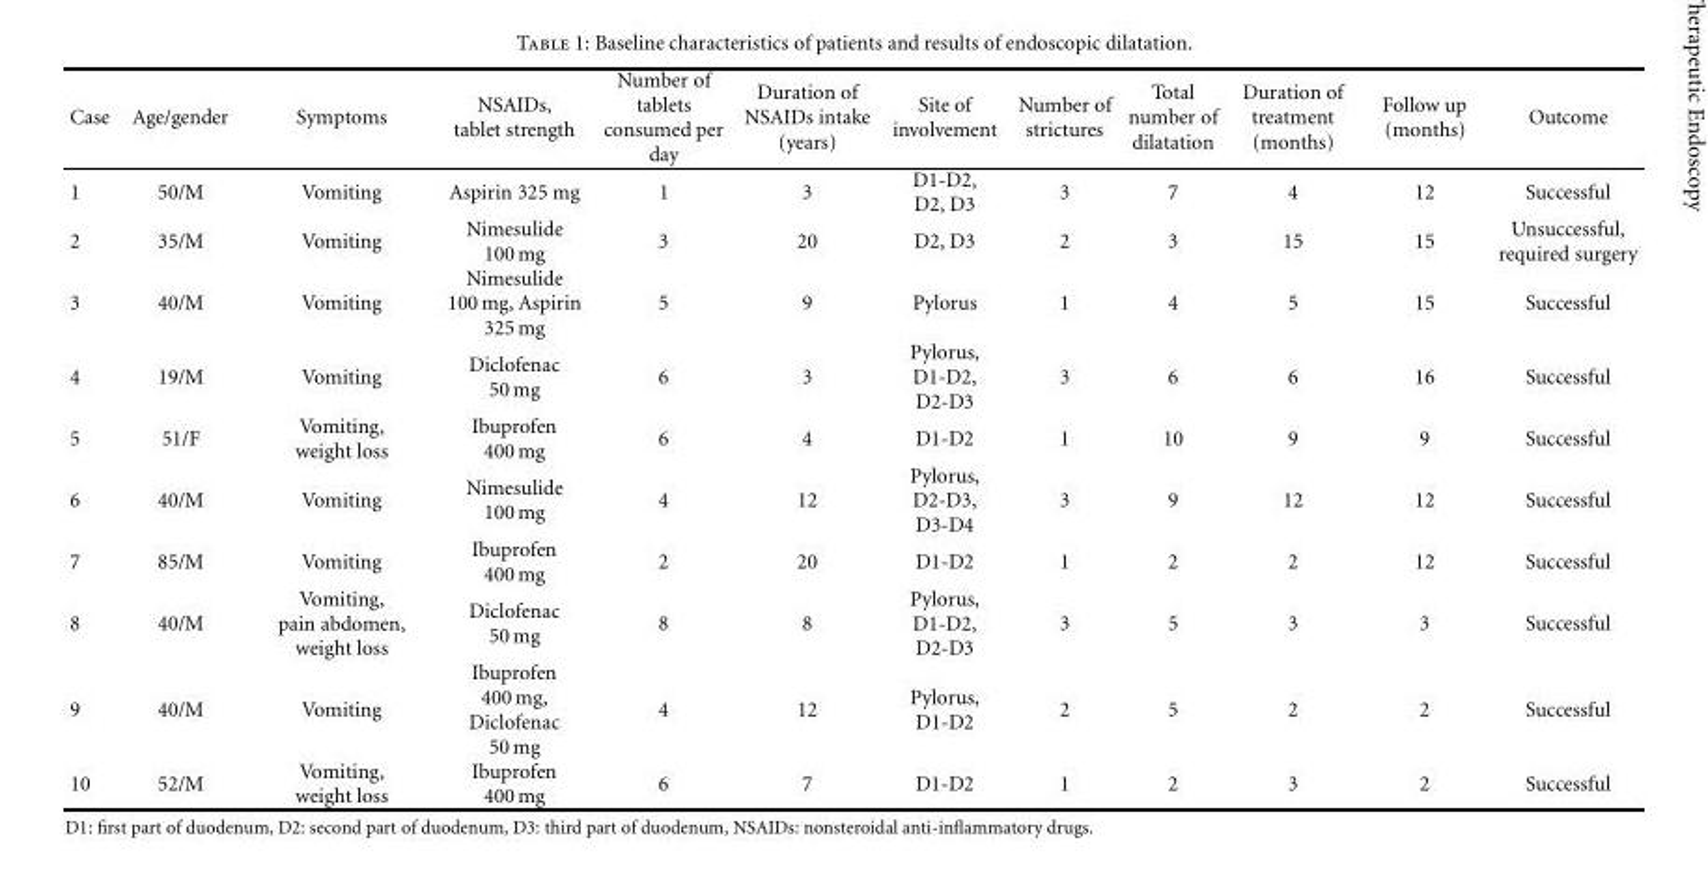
<table><thead><tr><td>Case</td><td>Age/gender</td><td>Symptoms</td><td>NSAIDs, tablet strength</td><td>Number of tablets consumed per day</td><td>Duration of NSAIDs intake (years)</td><td>Site of involvement</td><td>Number of strictures</td><td>Total number of dilatation</td><td>Duration of treatment (months)</td><td>Follow up (months)</td><td>Outcome</td></tr></thead><tbody><tr><td>1</td><td>50/M</td><td>Vomiting</td><td>Aspirin 325 mg</td><td>1</td><td>3</td><td>D1-D2, D2, D3</td><td>3</td><td>7</td><td>4</td><td>12</td><td>Successful</td></tr><tr><td>2</td><td>35/M</td><td>Vomiting</td><td>Nimesulide 100 mg</td><td>3</td><td>20</td><td>D2, D3</td><td>2</td><td>3</td><td>15</td><td>15</td><td>Unsuccessful, required surgery</td></tr><tr><td>3</td><td>40/M</td><td>Vomiting</td><td>Nimesulide 100 mg, Aspirin 325 mg</td><td>5</td><td>9</td><td>Pylorus</td><td>1</td><td>4</td><td>5</td><td>15</td><td>Successful</td></tr><tr><td>4</td><td>19/M</td><td>Vomiting</td><td>Diclofenac 50 mg</td><td>6</td><td>3</td><td>Pylorus, D1-D2, D2-D3</td><td>3</td><td>6</td><td>6</td><td>16</td><td>Successful</td></tr><tr><td>5</td><td>51/F</td><td>Vomiting, weight loss</td><td>Ibuprofen 400 mg</td><td>6</td><td>4</td><td>D1-D2</td><td>1</td><td>10</td><td>9</td><td>9</td><td>Successful</td></tr><tr><td>6</td><td>40/M</td><td>Vomiting</td><td>Nimesulide 100 mg</td><td>4</td><td>12</td><td>Pylorus, D2-D3, D3-D4</td><td>3</td><td>9</td><td>12</td><td>12</td><td>Successful</td></tr><tr><td>7</td><td>85/M</td><td>Vomiting</td><td>Ibuprofen 400 mg</td><td>2</td><td>20</td><td>D1-D2</td><td>1</td><td>2</td><td>2</td><td>12</td><td>Successful</td></tr><tr><td>8</td><td>40/M</td><td>Vomiting, pain abdomen, weight loss</td><td>Diclofenac 50 mg</td><td>8</td><td>8</td><td>Pylorus, D1-D2, D2-D3</td><td>3</td><td>5</td><td>3</td><td>3</td><td>Successful</td></tr><tr><td>9</td><td>40/M</td><td>Vomiting</td><td>Ibuprofen 400 mg, Diclofenac 50 mg</td><td>4</td><td>12</td><td>Pylorus, D1-D2</td><td>2</td><td>5</td><td>2</td><td>2</td><td>Successful</td></tr><tr><td>10</td><td>52/M</td><td>Vomiting, weight loss</td><td>Ibuprofen 400 mg</td><td>6</td><td>7</td><td>D1-D2</td><td>1</td><td>2</td><td>3</td><td>2</td><td>Successful</td></tr></tbody></table>